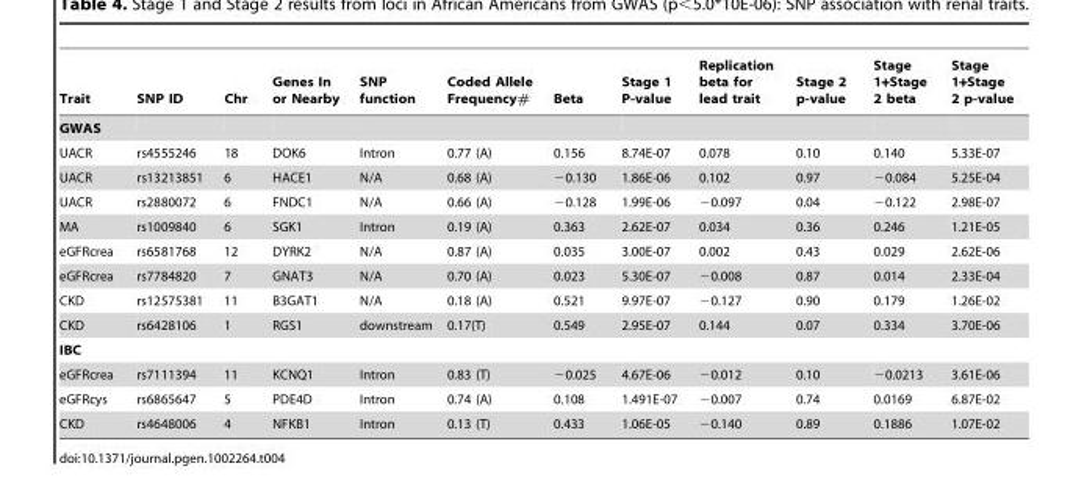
<table><thead><tr><td>Trait</td><td>SNP ID</td><td>Chr</td><td>Genes In or Nearby</td><td>SNP function</td><td>Coded Allele Frequency#</td><td>Beta</td><td>Stage 1 P-value</td><td>Replication beta for lead trait</td><td>Stage 2 p-value</td><td>Stage 1+Stage 2 beta</td><td>Stage 1+Stage 2 p-value</td></tr></thead><tbody><tr><td colspan="12">GWAS</td></tr><tr><td>UACR</td><td>rs4555246</td><td>18</td><td>DOK6</td><td>Intron</td><td>0.77 (A)</td><td>0.156</td><td>8.74E-07</td><td>0.078</td><td>0.10</td><td>0.140</td><td>5.33E-07</td></tr><tr><td>UACR</td><td>rs13213851</td><td>6</td><td>HACE1</td><td>N/A</td><td>0.68 (A)</td><td>−0.130</td><td>1.86E-06</td><td>0.102</td><td>0.97</td><td>−0.084</td><td>5.25E-04</td></tr><tr><td>UACR</td><td>rs2880072</td><td>6</td><td>FNDC1</td><td>N/A</td><td>0.66 (A)</td><td>−0.128</td><td>1.99E-06</td><td>−0.097</td><td>0.04</td><td>−0.122</td><td>2.98E-07</td></tr><tr><td>MA</td><td>rs1009840</td><td>6</td><td>SGK1</td><td>Intron</td><td>0.19 (A)</td><td>0.363</td><td>2.62E-07</td><td>0.034</td><td>0.36</td><td>0.246</td><td>1.21E-05</td></tr><tr><td>eGFRcrea</td><td>rs6581768</td><td>12</td><td>DYRK2</td><td>N/A</td><td>0.87 (A)</td><td>0.035</td><td>3.00E-07</td><td>0.002</td><td>0.43</td><td>0.029</td><td>2.62E-06</td></tr><tr><td>eGFRcrea</td><td>rs7784820</td><td>7</td><td>GNAT3</td><td>N/A</td><td>0.70 (A)</td><td>0.023</td><td>5.30E-07</td><td>−0.008</td><td>0.87</td><td>0.014</td><td>2.33E-04</td></tr><tr><td>CKD</td><td>rs12575381</td><td>11</td><td>B3GAT1</td><td>N/A</td><td>0.18 (A)</td><td>0.521</td><td>9.97E-07</td><td>−0.127</td><td>0.90</td><td>0.179</td><td>1.26E-02</td></tr><tr><td>CKD</td><td>rs6428106</td><td>1</td><td>RGS1</td><td>downstream</td><td>0.17(T)</td><td>0.549</td><td>2.95E-07</td><td>0.144</td><td>0.07</td><td>0.334</td><td>3.70E-06</td></tr><tr><td colspan="12">IBC</td></tr><tr><td>eGFRcrea</td><td>rs7111394</td><td>11</td><td>KCNQ1</td><td>Intron</td><td>0.83 (T)</td><td>−0.025</td><td>4.67E-06</td><td>−0.012</td><td>0.10</td><td>−0.0213</td><td>3.61E-06</td></tr><tr><td>eGFRcys</td><td>rs6865647</td><td>5</td><td>PDE4D</td><td>Intron</td><td>0.74 (A)</td><td>0.108</td><td>1.491E-07</td><td>−0.007</td><td>0.74</td><td>0.0169</td><td>6.87E-02</td></tr><tr><td>CKD</td><td>rs4648006</td><td>4</td><td>NFKB1</td><td>Intron</td><td>0.13 (T)</td><td>0.433</td><td>1.06E-05</td><td>−0.140</td><td>0.89</td><td>0.1886</td><td>1.07E-02</td></tr></tbody></table>